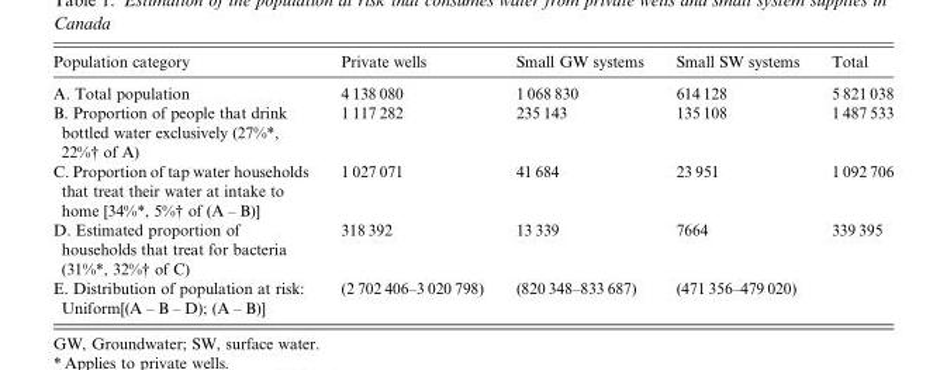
<table><thead><tr><td>Population category</td><td>Private wells</td><td>Small GW systems</td><td>Small SW systems</td><td>Total</td></tr></thead><tbody><tr><td>A. Total population</td><td>4 138 080</td><td>1 068 830</td><td>614 128</td><td>5 821 038</td></tr><tr><td>B. Proportion of people that drink bottled water exclusively (27%*, 22%† of A)</td><td>1 117 282</td><td>235 143</td><td>135 108</td><td>1 487 533</td></tr><tr><td>C. Proportion of tap water households that treat their water at intake to home [34%*, 5%† of (A – B)]</td><td>1 027 071</td><td>41 684</td><td>23 951</td><td>1 092 706</td></tr><tr><td>D. Estimated proportion of households that treat for bacteria (31%*, 32%† of C)</td><td>318 392</td><td>13 339</td><td>7664</td><td>339 395</td></tr><tr><td>E. Distribution of population at risk: Uniform[(A – B – D); (A – B)]</td><td>(2 702 406–3 020 798)</td><td>(820 348–833 687)</td><td>(471 356–479 020)</td><td></td></tr></tbody></table>